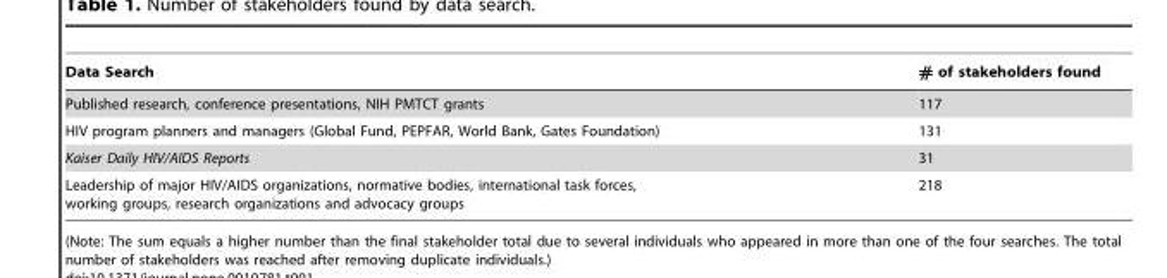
<table><thead><tr><td>Data Search</td><td># of stakeholders found</td></tr></thead><tbody><tr><td>Published research, conference presentations, NIH PMTCT grants</td><td>117</td></tr><tr><td>HIV program planners and managers (Global Fund, PEPFAR, World Bank, Gates Foundation)</td><td>131</td></tr><tr><td>Kaiser Daily HIV/AIDS Reports</td><td>31</td></tr><tr><td>Leadership of major HIV/AIDS organizations, normative bodies, international task forces, working groups, research organizations and advocacy groups</td><td>218</td></tr></tbody></table>